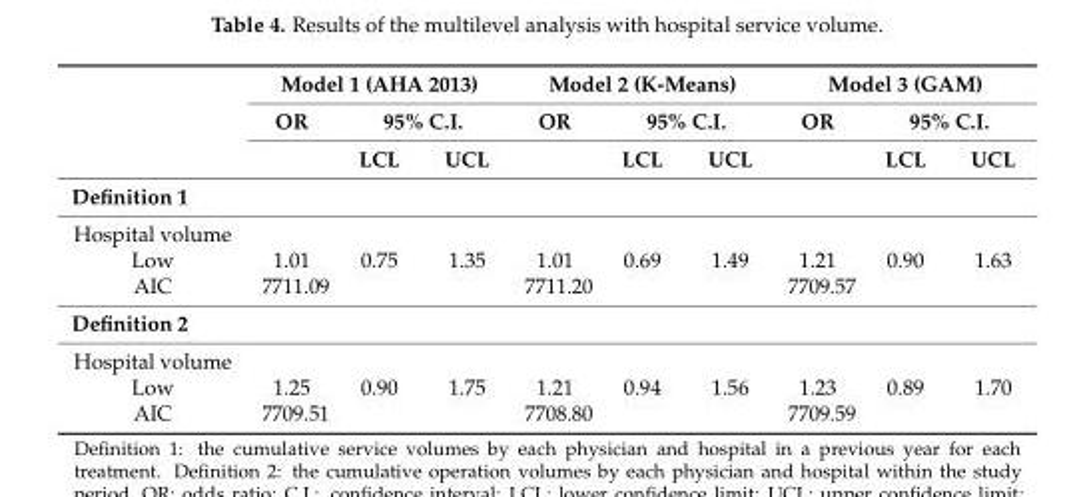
<table><thead><tr><td rowspan="3"></td><td colspan="3">Model 1 (AHA 2013)</td><td colspan="3">Model 2 (K-Means)</td><td colspan="3">Model 3 (GAM)</td></tr><tr><td rowspan="2">OR</td><td colspan="2">95% C.I.</td><td rowspan="2">OR</td><td colspan="2">95% C.I.</td><td rowspan="2">OR</td><td colspan="2">95% C.I.</td></tr><tr><td>LCL</td><td>UCL</td><td>LCL</td><td>UCL</td><td>LCL</td><td>UCL</td></tr></thead><tbody><tr><td colspan="10">Definition 1</td></tr><tr><td colspan="10">Hospital volume</td></tr><tr><td>Low</td><td>1.01</td><td>0.75</td><td>1.35</td><td>1.01</td><td>0.69</td><td>1.49</td><td>1.21</td><td>0.90</td><td>1.63</td></tr><tr><td>AIC</td><td>7711.09</td><td></td><td></td><td>7711.20</td><td></td><td></td><td>7709.57</td><td></td><td></td></tr><tr><td colspan="10">Definition 2</td></tr><tr><td colspan="10">Hospital volume</td></tr><tr><td>Low</td><td>1.25</td><td>0.90</td><td>1.75</td><td>1.21</td><td>0.94</td><td>1.56</td><td>1.23</td><td>0.89</td><td>1.70</td></tr><tr><td>AIC</td><td>7709.51</td><td></td><td></td><td>7708.80</td><td></td><td></td><td>7709.59</td><td></td><td></td></tr></tbody></table>